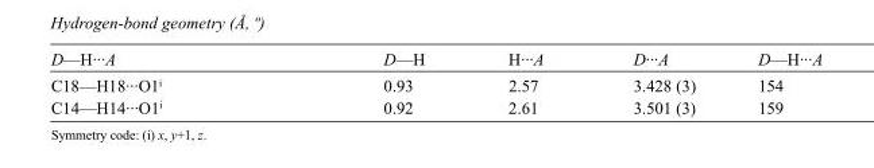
<table><tbody><tr><td>D—H···A</td><td>D—H</td><td>H···A</td><td>D···A</td><td>D—H···A</td></tr><tr><td>C18—H18···O1<sup>i</sup></td><td>0.93</td><td>2.57</td><td>3.428 (3)</td><td>154</td></tr><tr><td>C14—H14···O1<sup>i</sup></td><td>0.92</td><td>2.61</td><td>3.501 (3)</td><td>159</td></tr></tbody></table>